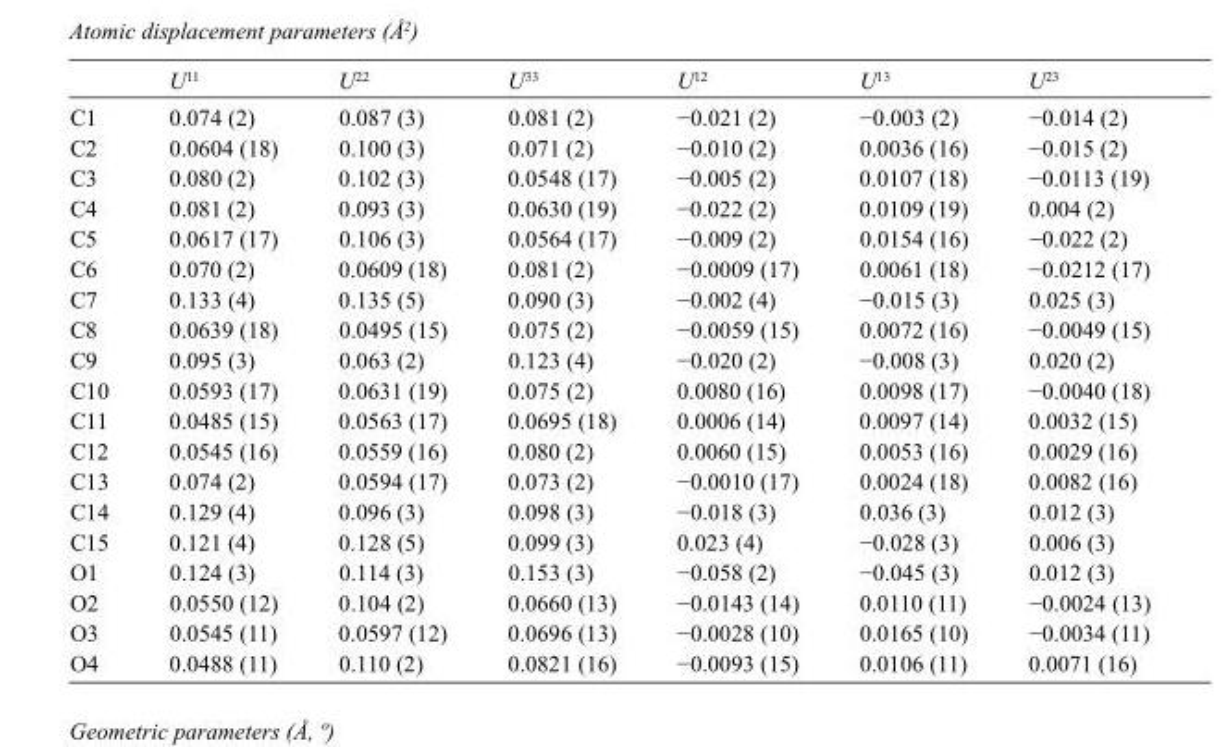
<table><thead><tr><td></td><td>U<sup>11</sup></td><td>U<sup>22</sup></td><td>U<sup>33</sup></td><td>U<sup>12</sup></td><td>U<sup>13</sup></td><td>U<sup>23</sup></td></tr></thead><tbody><tr><td>C1</td><td>0.074 (2)</td><td>0.087 (3)</td><td>0.081 (2)</td><td>−0.021 (2)</td><td>−0.003 (2)</td><td>−0.014 (2)</td></tr><tr><td>C2</td><td>0.0604 (18)</td><td>0.100 (3)</td><td>0.071 (2)</td><td>−0.010 (2)</td><td>0.0036 (16)</td><td>−0.015 (2)</td></tr><tr><td>C3</td><td>0.080 (2)</td><td>0.102 (3)</td><td>0.0548 (17)</td><td>−0.005 (2)</td><td>0.0107 (18)</td><td>−0.0113 (19)</td></tr><tr><td>C4</td><td>0.081 (2)</td><td>0.093 (3)</td><td>0.0630 (19)</td><td>−0.022 (2)</td><td>0.0109 (19)</td><td>0.004 (2)</td></tr><tr><td>C5</td><td>0.0617 (17)</td><td>0.106 (3)</td><td>0.0564 (17)</td><td>−0.009 (2)</td><td>0.0154 (16)</td><td>−0.022 (2)</td></tr><tr><td>C6</td><td>0.070 (2)</td><td>0.0609 (18)</td><td>0.081 (2)</td><td>−0.0009 (17)</td><td>0.0061 (18)</td><td>−0.0212 (17)</td></tr><tr><td>C7</td><td>0.133 (4)</td><td>0.135 (5)</td><td>0.090 (3)</td><td>−0.002 (4)</td><td>−0.015 (3)</td><td>0.025 (3)</td></tr><tr><td>C8</td><td>0.0639 (18)</td><td>0.0495 (15)</td><td>0.075 (2)</td><td>−0.0059 (15)</td><td>0.0072 (16)</td><td>−0.0049 (15)</td></tr><tr><td>C9</td><td>0.095 (3)</td><td>0.063 (2)</td><td>0.123 (4)</td><td>−0.020 (2)</td><td>−0.008 (3)</td><td>0.020 (2)</td></tr><tr><td>C10</td><td>0.0593 (17)</td><td>0.0631 (19)</td><td>0.075 (2)</td><td>0.0080 (16)</td><td>0.0098 (17)</td><td>−0.0040 (18)</td></tr><tr><td>C11</td><td>0.0485 (15)</td><td>0.0563 (17)</td><td>0.0695 (18)</td><td>0.0006 (14)</td><td>0.0097 (14)</td><td>0.0032 (15)</td></tr><tr><td>C12</td><td>0.0545 (16)</td><td>0.0559 (16)</td><td>0.080 (2)</td><td>0.0060 (15)</td><td>0.0053 (16)</td><td>0.0029 (16)</td></tr><tr><td>C13</td><td>0.074 (2)</td><td>0.0594 (17)</td><td>0.073 (2)</td><td>−0.0010 (17)</td><td>0.0024 (18)</td><td>0.0082 (16)</td></tr><tr><td>C14</td><td>0.129 (4)</td><td>0.096 (3)</td><td>0.098 (3)</td><td>−0.018 (3)</td><td>0.036 (3)</td><td>0.012 (3)</td></tr><tr><td>C15</td><td>0.121 (4)</td><td>0.128 (5)</td><td>0.099 (3)</td><td>0.023 (4)</td><td>−0.028 (3)</td><td>0.006 (3)</td></tr><tr><td>O1</td><td>0.124 (3)</td><td>0.114 (3)</td><td>0.153 (3)</td><td>−0.058 (2)</td><td>−0.045 (3)</td><td>0.012 (3)</td></tr><tr><td>O2</td><td>0.0550 (12)</td><td>0.104 (2)</td><td>0.0660 (13)</td><td>−0.0143 (14)</td><td>0.0110 (11)</td><td>−0.0024 (13)</td></tr><tr><td>O3</td><td>0.0545 (11)</td><td>0.0597 (12)</td><td>0.0696 (13)</td><td>−0.0028 (10)</td><td>0.0165 (10)</td><td>−0.0034 (11)</td></tr><tr><td>O4</td><td>0.0488 (11)</td><td>0.110 (2)</td><td>0.0821 (16)</td><td>−0.0093 (15)</td><td>0.0106 (11)</td><td>0.0071 (16)</td></tr></tbody></table>